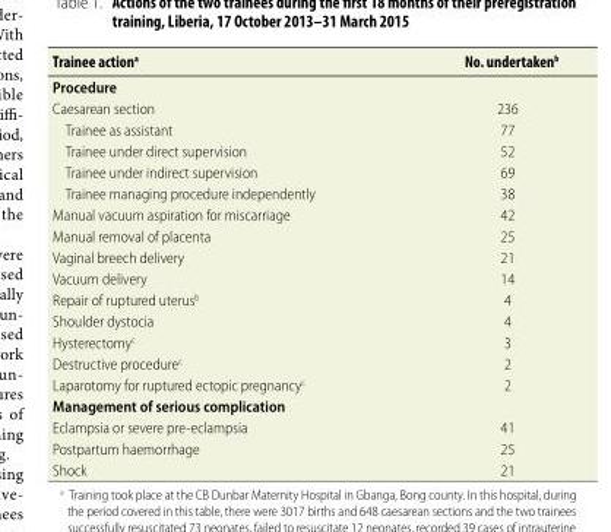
<table><thead><tr><td>Trainee action<sup>a</sup></td><td>No. undertaken<sup>b</sup></td></tr></thead><tbody><tr><td colspan="2">Procedure</td></tr><tr><td>Caesarean section</td><td>236</td></tr><tr><td>Trainee as assistant</td><td>77</td></tr><tr><td>Trainee under direct supervision</td><td>52</td></tr><tr><td>Trainee under indirect supervision</td><td>69</td></tr><tr><td>Trainee managing procedure independently</td><td>38</td></tr><tr><td>Manual vacuum aspiration for miscarriage</td><td>42</td></tr><tr><td>Manual removal of placenta</td><td>25</td></tr><tr><td>Vaginal breech delivery</td><td>21</td></tr><tr><td>Vacuum delivery</td><td>14</td></tr><tr><td>Repair of ruptured uterus<sup>b</sup></td><td>4</td></tr><tr><td>Shoulder dystocia</td><td>4</td></tr><tr><td>Hysterectomy<sup>c</sup></td><td>3</td></tr><tr><td>Destructive procedure<sup>c</sup></td><td>2</td></tr><tr><td>Laparotomy for ruptured ectopic pregnancy<sup>c</sup></td><td>2</td></tr><tr><td colspan="2">Management of serious complication</td></tr><tr><td>Eclampsia or severe pre-eclampsia</td><td>41</td></tr><tr><td>Postpartum haemorrhage</td><td>25</td></tr><tr><td>Shock</td><td>21</td></tr></tbody></table>